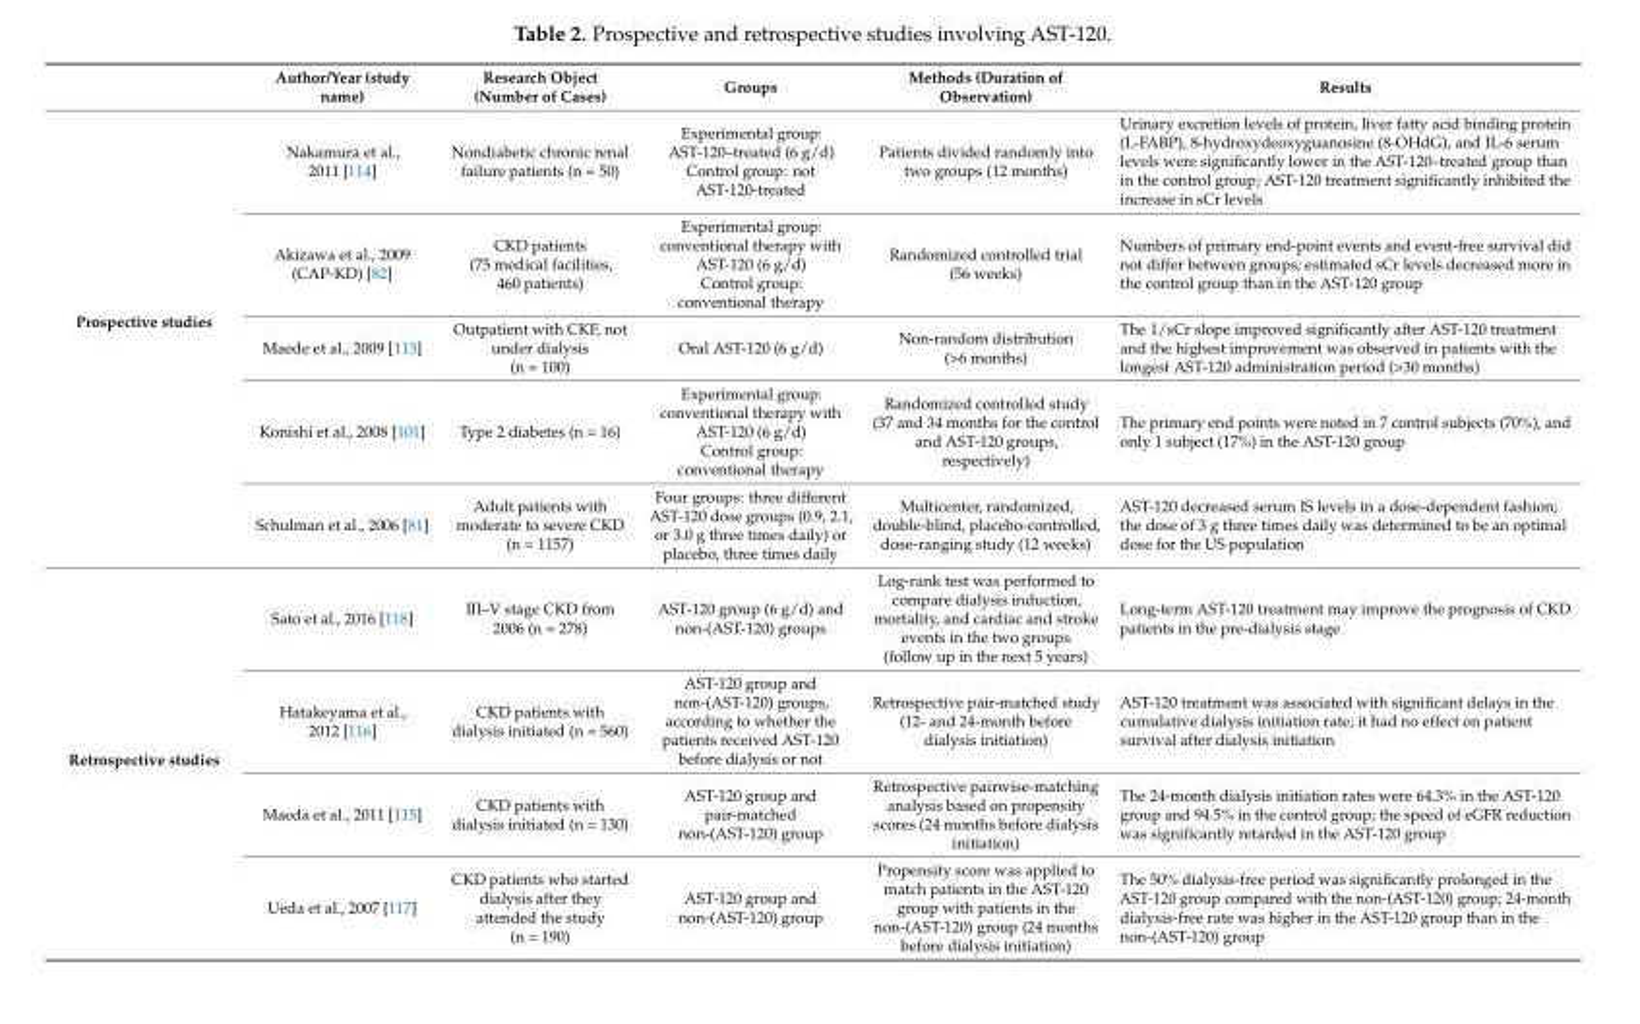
<table><thead><tr><td></td><td>Author/Year (study name)</td><td>Research Object (Number of Cases)</td><td>Groups</td><td>Methods (Duration of Observation)</td><td>Results</td></tr></thead><tbody><tr><td rowspan="5">Prospective studies</td><td>Nakamura et al., 2011 [114]</td><td>Nondiabetic chronic renal failure patients (n = 50)</td><td>Experimental group: AST-120–treated (6 g/d) Control group: not AST-120-treated</td><td>Patients divided randomly into two groups (12 months)</td><td>Urinary excretion levels of protein, liver fatty acid binding protein (L-FABP), 8-hydroxydeoxyguanosine (8-OHdG), and IL-6 serum levels were significantly lower in the AST-120–treated group than in the control group; AST-120 treatment significantly inhibited the increase in sCr levels</td></tr><tr><td>Akizawa et al., 2009 (CAP-KD) [82]</td><td>CKD patients (75 medical facilities, 460 patients)</td><td>Experimental group: conventional therapy with AST-120 (6 g/d) Control group: conventional therapy</td><td>Randomized controlled trial (56 weeks)</td><td>Numbers of primary end-point events and event-free survival did not differ between groups; estimated sCr levels decreased more in the control group than in the AST-120 group</td></tr><tr><td>Maede et al., 2009 [113]</td><td>Outpatient with CKF, not under dialysis (n = 100)</td><td>Oral AST-120 (6 g/d)</td><td>Non-random distribution (&gt;6 months)</td><td>The 1/sCr slope improved significantly after AST-120 treatment and the highest improvement was observed in patients with the longest AST-120 administration period (&gt;30 months)</td></tr><tr><td>Konishi et al., 2008 [101]</td><td>Type 2 diabetes (n = 16)</td><td>Experimental group: conventional therapy with AST-120 (6 g/d) Control group: conventional therapy</td><td>Randomized controlled study (37 and 34 months for the control and AST-120 groups, respectively)</td><td>The primary end points were noted in 7 control subjects (70%), and only 1 subject (17%) in the AST-120 group</td></tr><tr><td>Schulman et al., 2006 [81]</td><td>Adult patients with moderate to severe CKD (n = 1157)</td><td>Four groups: three different AST-120 dose groups (0.9, 2.1, or 3.0 g three times daily) or placebo, three times daily</td><td>Multicenter, randomized, double-blind, placebo-controlled, dose-ranging study (12 weeks)</td><td>AST-120 decreased serum IS levels in a dose-dependent fashion; the dose of 3 g three times daily was determined to be an optimal dose for the US population</td></tr><tr><td rowspan="4">Retrospective studies</td><td>Sato et al., 2016 [118]</td><td>III–V stage CKD from 2006 (n = 278)</td><td>AST-120 group (6 g/d) and non-(AST-120) groups</td><td>Log-rank test was performed to compare dialysis induction, mortality, and cardiac and stroke events in the two groups (follow up in the next 5 years)</td><td>Long-term AST-120 treatment may improve the prognosis of CKD patients in the pre-dialysis stage</td></tr><tr><td>Hatakeyama et al., 2012 [116]</td><td>CKD patients with dialysis initiated (n = 560)</td><td>AST-120 group and non-(AST-120) groups, according to whether the patients received AST-120 before dialysis or not</td><td>Retrospective pair-matched study (12- and 24-month before dialysis initiation)</td><td>AST-120 treatment was associated with significant delays in the cumulative dialysis initiation rate; it had no effect on patient survival after dialysis initiation</td></tr><tr><td>Maeda et al., 2011 [115]</td><td>CKD patients with dialysis initiated (n = 130)</td><td>AST-120 group and pair-matched non-(AST-120) group</td><td>Retrospective pairwise-matching analysis based on propensity scores (24 months before dialysis initiation)</td><td>The 24-month dialysis initiation rates were 64.3% in the AST-120 group and 94.5% in the control group; the speed of eGFR reduction was significantly retarded in the AST-120 group</td></tr><tr><td>Ueda et al., 2007 [117]</td><td>CKD patients who started dialysis after they attended the study (n = 190)</td><td>AST-120 group and non-(AST-120) group</td><td>Propensity score was applied to match patients in the AST-120 group with patients in the non-(AST-120) group (24 months before dialysis initiation)</td><td>The 50% dialysis-free period was significantly prolonged in the AST-120 group compared with the non-(AST-120) group; 24-month dialysis-free rate was higher in the AST-120 group than in the non-(AST-120) group</td></tr></tbody></table>